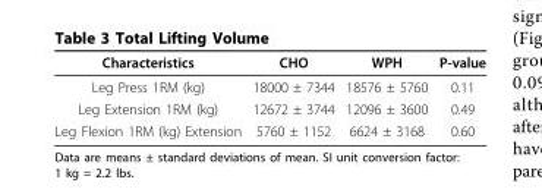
<table><thead><tr><td>Characteristics</td><td>CHO</td><td>WPH</td><td>P-value</td></tr></thead><tbody><tr><td>Leg Press 1RM (kg)</td><td>18000 ± 7344</td><td>18576 ± 5760</td><td>0.11</td></tr><tr><td>Leg Extension 1RM (kg)</td><td>12672 ± 3744</td><td>12096 ± 3600</td><td>0.49</td></tr><tr><td>Leg Flexion 1RM (kg) Extension</td><td>5760 ± 1152</td><td>6624 ± 3168</td><td>0.60</td></tr></tbody></table>